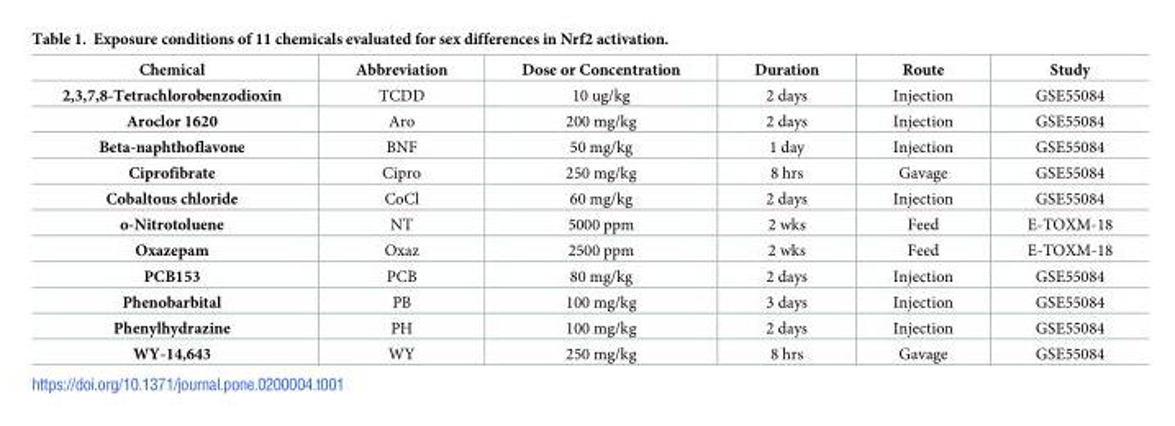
<table><thead><tr><td>Chemical</td><td>Abbreviation</td><td>Dose or Concentration</td><td>Duration</td><td>Route</td><td>Study</td></tr></thead><tbody><tr><td>2,3,7,8-Tetrachlorobenzodioxin</td><td>TCDD</td><td>10 ug/kg</td><td>2 days</td><td>Injection</td><td>GSE55084</td></tr><tr><td>Aroclor 1620</td><td>Aro</td><td>200 mg/kg</td><td>2 days</td><td>Injection</td><td>GSE55084</td></tr><tr><td>Beta-naphthoflavone</td><td>BNF</td><td>50 mg/kg</td><td>1 day</td><td>Injection</td><td>GSE55084</td></tr><tr><td>Ciprofibrate</td><td>Cipro</td><td>250 mg/kg</td><td>8 hrs</td><td>Gavage</td><td>GSE55084</td></tr><tr><td>Cobaltous chloride</td><td>CoCl</td><td>60 mg/kg</td><td>2 days</td><td>Injection</td><td>GSE55084</td></tr><tr><td>o-Nitrotoluene</td><td>NT</td><td>5000 ppm</td><td>2 wks</td><td>Feed</td><td>E-TOXM-18</td></tr><tr><td>Oxazepam</td><td>Oxaz</td><td>2500 ppm</td><td>2 wks</td><td>Feed</td><td>E-TOXM-18</td></tr><tr><td>PCB153</td><td>PCB</td><td>80 mg/kg</td><td>2 days</td><td>Injection</td><td>GSE55084</td></tr><tr><td>Phenobarbital</td><td>PB</td><td>100 mg/kg</td><td>3 days</td><td>Injection</td><td>GSE55084</td></tr><tr><td>Phenylhydrazine</td><td>PH</td><td>100 mg/kg</td><td>2 days</td><td>Injection</td><td>GSE55084</td></tr><tr><td>WY-14,643</td><td>WY</td><td>250 mg/kg</td><td>8 hrs</td><td>Gavage</td><td>GSE55084</td></tr></tbody></table>